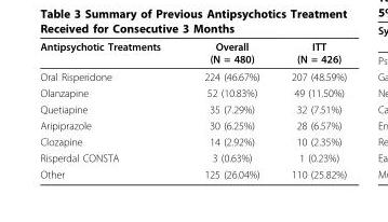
<table><thead><tr><td>Antipsychotic Treatments</td><td>Overall (N = 480)</td><td>ITT (N = 426)</td></tr></thead><tbody><tr><td>Oral Risperidone</td><td>224 (46.67%)</td><td>207 (48.59%)</td></tr><tr><td>Olanzapine</td><td>52 (10.83%)</td><td>49 (11.50%)</td></tr><tr><td>Quetiapine</td><td>35 (7.29%)</td><td>32 (7.51%)</td></tr><tr><td>Aripiprazole</td><td>30 (6.25%)</td><td>28 (6.57%)</td></tr><tr><td>Clozapine</td><td>14 (2.92%)</td><td>10 (2.35%)</td></tr><tr><td>Risperdal CONSTA</td><td>3 (0.63%)</td><td>1 (0.23%)</td></tr><tr><td>Other</td><td>125 (26.04%)</td><td>110 (25.82%)</td></tr></tbody></table>